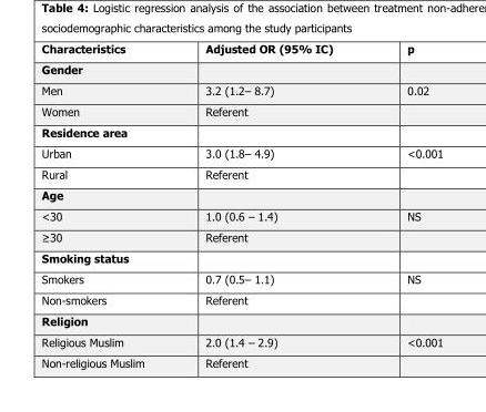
<table><thead><tr><td>Characteristics</td><td>Adjusted OR (95% IC)</td><td>p</td></tr></thead><tbody><tr><td colspan="3">Gender</td></tr><tr><td>Men</td><td>3.2 (1.2– 8.7)</td><td>0.02</td></tr><tr><td>Women</td><td>Referent</td><td></td></tr><tr><td colspan="3">Residence area</td></tr><tr><td>Urban</td><td>3.0 (1.8– 4.9)</td><td>&lt;0.001</td></tr><tr><td>Rural</td><td>Referent</td><td></td></tr><tr><td colspan="3">Age</td></tr><tr><td>&lt;30</td><td>1.0 (0.6 – 1.4)</td><td>NS</td></tr><tr><td>≥30</td><td>Referent</td><td></td></tr><tr><td colspan="3">Smoking status</td></tr><tr><td>Smokers</td><td>0.7 (0.5– 1.1)</td><td>NS</td></tr><tr><td>Non-smokers</td><td>Referent</td><td></td></tr><tr><td colspan="3">Religion</td></tr><tr><td>Religious Muslim</td><td>2.0 (1.4 – 2.9)</td><td>&lt;0.001</td></tr><tr><td>Non-religious Muslim</td><td>Referent</td><td></td></tr></tbody></table>